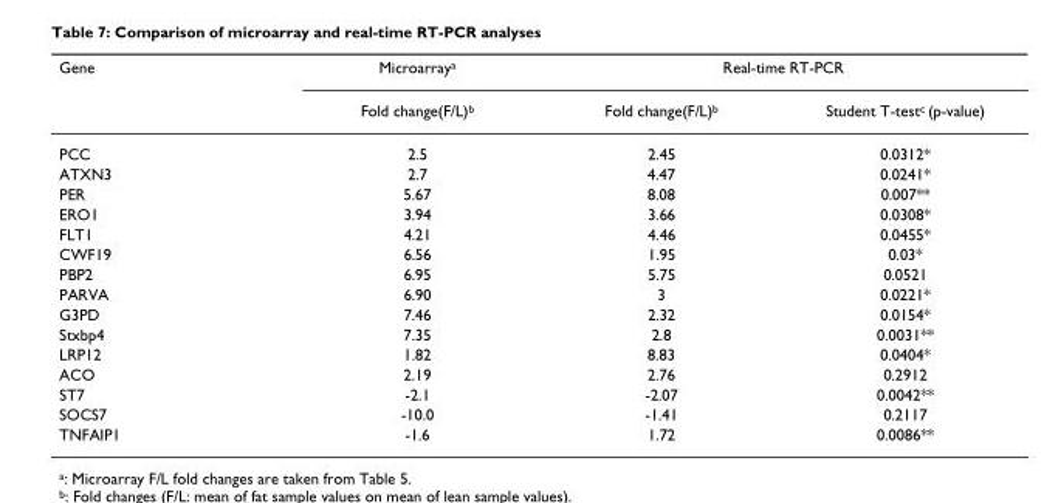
<table><thead><tr><td rowspan="2">Gene</td><td rowspan="2">Microarray<sup>a</sup> Fold change(F/L)<sup>b</sup></td><td colspan="2">Real-time RT-PCR</td></tr><tr><td>Fold change(F/L)<sup>b</sup></td><td>Student T-test<sup>c</sup> (p-value)</td></tr></thead><tbody><tr><td>PCC</td><td>2.5</td><td>2.45</td><td>0.0312*</td></tr><tr><td>ATXN3</td><td>2.7</td><td>4.47</td><td>0.0241*</td></tr><tr><td>PER</td><td>5.67</td><td>8.08</td><td>0.007**</td></tr><tr><td>ERO1</td><td>3.94</td><td>3.66</td><td>0.0308*</td></tr><tr><td>FLT1</td><td>4.21</td><td>4.46</td><td>0.0455*</td></tr><tr><td>CWF19</td><td>6.56</td><td>1.95</td><td>0.03*</td></tr><tr><td>PBP2</td><td>6.95</td><td>5.75</td><td>0.0521</td></tr><tr><td>PARVA</td><td>6.90</td><td>3</td><td>0.0221*</td></tr><tr><td>G3PD</td><td>7.46</td><td>2.32</td><td>0.0154*</td></tr><tr><td>Stxbp4</td><td>7.35</td><td>2.8</td><td>0.0031**</td></tr><tr><td>LRP12</td><td>1.82</td><td>8.83</td><td>0.0404*</td></tr><tr><td>ACO</td><td>2.19</td><td>2.76</td><td>0.2912</td></tr><tr><td>ST7</td><td>-2.1</td><td>-2.07</td><td>0.0042**</td></tr><tr><td>SOCS7</td><td>-10.0</td><td>-1.41</td><td>0.2117</td></tr><tr><td>TNFAIP1</td><td>-1.6</td><td>1.72</td><td>0.0086**</td></tr></tbody></table>